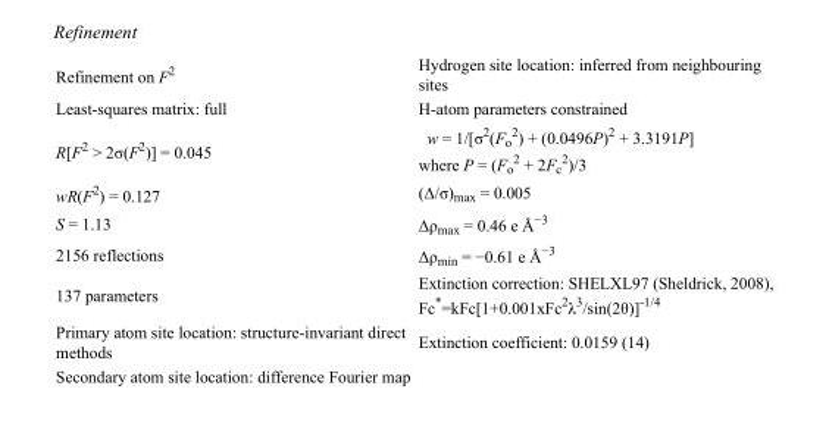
<table><tbody><tr><td>Refinement on F<sup>2</sup></td><td>Hydrogen site location: inferred from neighbouring sites</td></tr><tr><td>Least-squares matrix: full</td><td>H-atom parameters constrained</td></tr><tr><td>R[F<sup>2</sup> &gt; 2σ(F<sup>2</sup>)] = 0.045</td><td>w = 1/[σ<sup>2</sup>(F<sub>o</sub> <sup>2</sup>) + (0.0496P)<sup>2</sup> + 3.3191P] where P = (F<sub>o</sub> <sup>2</sup> + 2F<sub>c</sub> <sup>2</sup>)/3</td></tr><tr><td>wR(F<sup>2</sup>) = 0.127</td><td>(Δ/σ)<sub>max</sub> = 0.005</td></tr><tr><td>S = 1.13</td><td>Δρ<sub>max</sub> = 0.46 e Å<sup>−3</sup></td></tr><tr><td>2156 reflections</td><td>Δρ<sub>min</sub> = −0.61 e Å<sup>−3</sup></td></tr><tr><td>137 parameters</td><td>Extinction correction: SHELXL97 (Sheldrick, 2008), Fc*=kFc[1+0.001xFc<sup>2</sup>λ<sup>3</sup>/sin(2θ)]<sup>-1/4</sup></td></tr><tr><td>Primary atom site location: structure-invariant direct methods</td><td>Extinction coefficient: 0.0159 (14)</td></tr><tr><td>Secondary atom site location: difference Fourier map</td><td></td></tr></tbody></table>